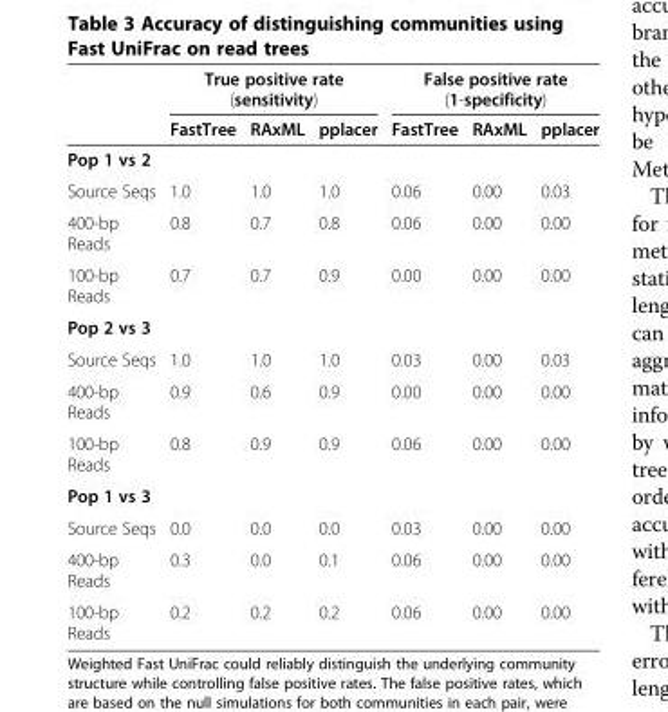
<table><thead><tr><td rowspan="2"></td><td colspan="3">True positive rate (sensitivity)</td><td colspan="3">False positive rate (1-specificity)</td></tr><tr><td>FastTree</td><td>RAxML</td><td>pplacer</td><td>FastTree</td><td>RAxML</td><td>pplacer</td></tr></thead><tbody><tr><td colspan="7">Pop 1 vs 2</td></tr><tr><td>Source Seqs</td><td>1.0</td><td>1.0</td><td>1.0</td><td>0.06</td><td>0.00</td><td>0.03</td></tr><tr><td>400-bp Reads</td><td>0.8</td><td>0.7</td><td>0.8</td><td>0.06</td><td>0.00</td><td>0.00</td></tr><tr><td>100-bp Reads</td><td>0.7</td><td>0.7</td><td>0.9</td><td>0.00</td><td>0.00</td><td>0.00</td></tr><tr><td colspan="7">Pop 2 vs 3</td></tr><tr><td>Source Seqs</td><td>1.0</td><td>1.0</td><td>1.0</td><td>0.03</td><td>0.00</td><td>0.03</td></tr><tr><td>400-bp Reads</td><td>0.9</td><td>0.6</td><td>0.9</td><td>0.00</td><td>0.00</td><td>0.00</td></tr><tr><td>100-bp Reads</td><td>0.8</td><td>0.9</td><td>0.9</td><td>0.06</td><td>0.00</td><td>0.00</td></tr><tr><td colspan="7">Pop 1 vs 3</td></tr><tr><td>Source Seqs</td><td>0.0</td><td>0.0</td><td>0.0</td><td>0.03</td><td>0.00</td><td>0.00</td></tr><tr><td>400-bp Reads</td><td>0.3</td><td>0.0</td><td>0.1</td><td>0.06</td><td>0.00</td><td>0.00</td></tr><tr><td>100-bp Reads</td><td>0.2</td><td>0.2</td><td>0.2</td><td>0.06</td><td>0.00</td><td>0.00</td></tr></tbody></table>